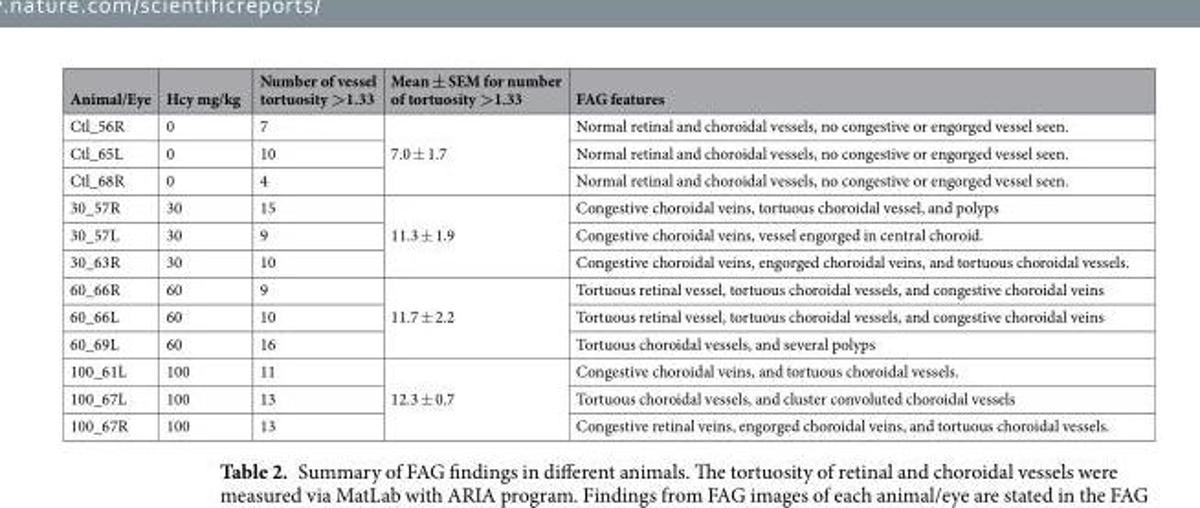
<table><thead><tr><td>Animal/Eye</td><td>Hcy mg/kg</td><td>Number of vessel tortuosity &gt;1.33</td><td>Mean ± SEM for number of tortuosity &gt;1.33</td><td>FAG features</td></tr></thead><tbody><tr><td>Ctl_56R</td><td>0</td><td>7</td><td rowspan="3">7.0 ± 1.7</td><td>Normal retinal and choroidal vessels, no congestive or engorged vessel seen.</td></tr><tr><td>Ctl_65L</td><td>0</td><td>10</td><td>Normal retinal and choroidal vessels, no congestive or engorged vessel seen.</td></tr><tr><td>Ctl_68R</td><td>0</td><td>4</td><td>Normal retinal and choroidal vessels, no congestive or engorged vessel seen.</td></tr><tr><td>30_57R</td><td>30</td><td>15</td><td rowspan="3">11.3 ± 1.9</td><td>Congestive choroidal veins, tortuous choroidal vessel, and polyps</td></tr><tr><td>30_57L</td><td>30</td><td>9</td><td>Congestive choroidal veins, vessel engorged in central choroid.</td></tr><tr><td>30_63R</td><td>30</td><td>10</td><td>Congestive choroidal veins, engorged choroidal veins, and tortuous choroidal vessels.</td></tr><tr><td>60_66R</td><td>60</td><td>9</td><td rowspan="3">11.7 ± 2.2</td><td>Tortuous retinal vessel, tortuous choroidal vessels, and congestive choroidal veins</td></tr><tr><td>60_66L</td><td>60</td><td>10</td><td>Tortuous retinal vessel, tortuous choroidal vessels, and congestive choroidal veins</td></tr><tr><td>60_69L</td><td>60</td><td>16</td><td>Tortuous choroidal vessels, and several polyps</td></tr><tr><td>100_61L</td><td>100</td><td>11</td><td rowspan="3">12.3 ± 0.7</td><td>Congestive choroidal veins, and tortuous choroidal vessels.</td></tr><tr><td>100_67L</td><td>100</td><td>13</td><td>Tortuous choroidal vessels, and cluster convoluted choroidal vessels</td></tr><tr><td>100_67R</td><td>100</td><td>13</td><td>Congestive retinal veins, engorged choroidal veins, and tortuous choroidal vessels.</td></tr></tbody></table>